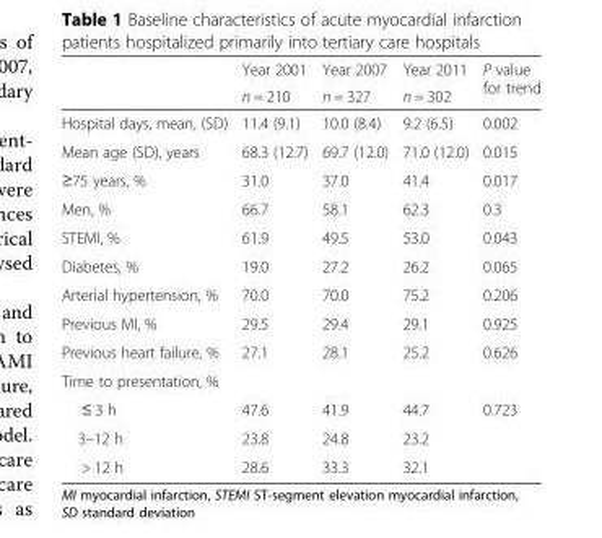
<table><thead><tr><td rowspan="2"></td><td rowspan="2">Year 2001 n = 210</td><td rowspan="2">Year 2007 n = 327</td><td rowspan="2">Year 2011 n = 302</td><td rowspan="2">P value for trend</td></tr><tr></tr></thead><tbody><tr><td>Hospital days, mean, (SD)</td><td>11.4 (9.1)</td><td>10.0 (8.4)</td><td>9.2 (6.5)</td><td>0.002</td></tr><tr><td>Mean age (SD), years</td><td>68.3 (12.7)</td><td>69.7 (12.0)</td><td>71.0 (12.0)</td><td>0.015</td></tr><tr><td>≥75 years, %</td><td>31.0</td><td>37.0</td><td>41.4</td><td>0.017</td></tr><tr><td>Men, %</td><td>66.7</td><td>58.1</td><td>62.3</td><td>0.3</td></tr><tr><td>STEMI, %</td><td>61.9</td><td>49.5</td><td>53.0</td><td>0.043</td></tr><tr><td>Diabetes, %</td><td>19.0</td><td>27.2</td><td>26.2</td><td>0.065</td></tr><tr><td>Arterial hypertension, %</td><td>70.0</td><td>70.0</td><td>75.2</td><td>0.206</td></tr><tr><td>Previous MI, %</td><td>29.5</td><td>29.4</td><td>29.1</td><td>0.925</td></tr><tr><td>Previous heart failure, %</td><td>27.1</td><td>28.1</td><td>25.2</td><td>0.626</td></tr><tr><td colspan="5">Time to presentation, %</td></tr><tr><td>≤ 3 h</td><td>47.6</td><td>41.9</td><td>44.7</td><td rowspan="3">0.723</td></tr><tr><td>3–12 h</td><td>23.8</td><td>24.8</td><td>23.2</td></tr><tr><td>&gt; 12 h</td><td>28.6</td><td>33.3</td><td>32.1</td></tr></tbody></table>